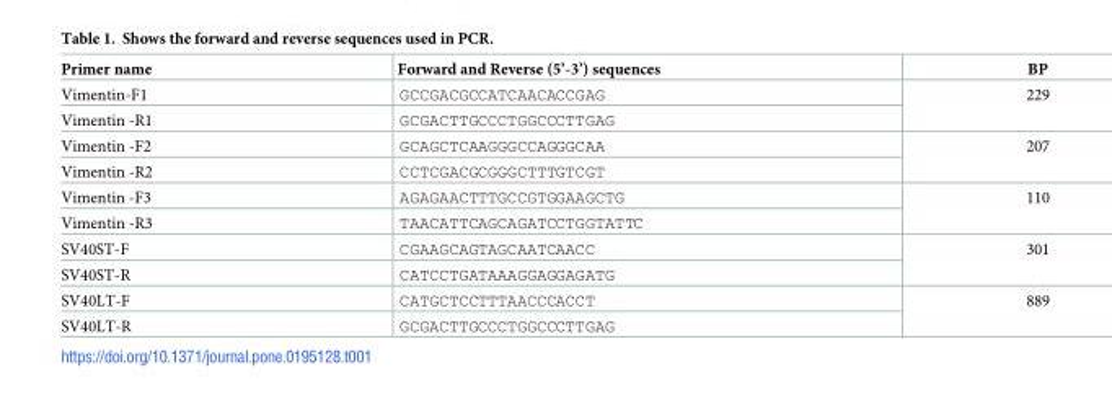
<table><thead><tr><td>Primer name</td><td>Forward and Reverse (5’-3’) sequences</td><td>BP</td></tr></thead><tbody><tr><td>Vimentin-F1</td><td>GCCGACGCCATCAACACCGAG</td><td rowspan="2">229</td></tr><tr><td>Vimentin -R1</td><td>GCGACTTGCCCTGGCCCTTGAG</td></tr><tr><td>Vimentin -F2</td><td>GCAGCTCAAGGGCCAGGGCAA</td><td rowspan="2">207</td></tr><tr><td>Vimentin -R2</td><td>CCTCGACGCGGGCTTTGTCGT</td></tr><tr><td>Vimentin -F3</td><td>AGAGAACTTTGCCGTGGAAGCTG</td><td rowspan="2">110</td></tr><tr><td>Vimentin -R3</td><td>TAACATTCAGCAGATCCTGGTATTC</td></tr><tr><td>SV40ST-F</td><td>CGAAGCAGTAGCAATCAACC</td><td rowspan="2">301</td></tr><tr><td>SV40ST-R</td><td>CATCCTGATAAAGGAGGAGATG</td></tr><tr><td>SV40LT-F</td><td>CATGCTCCTTTAACCCACCT</td><td rowspan="2">889</td></tr><tr><td>SV40LT-R</td><td>GCGACTTGCCCTGGCCCTTGAG</td></tr></tbody></table>